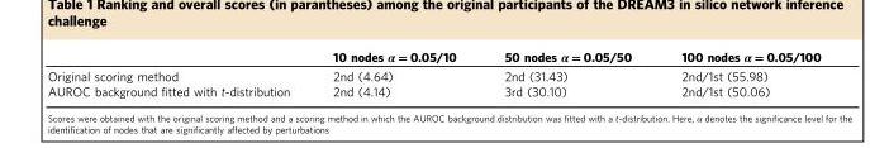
<table><thead><tr><td></td><td>10 nodes α = 0.05/10</td><td>50 nodes α = 0.05/50</td><td>100 nodes α = 0.05/100</td></tr></thead><tbody><tr><td>Original scoring method</td><td>2nd (4.64)</td><td>2nd (31.43)</td><td>2nd/1st (55.98)</td></tr><tr><td>AUROC background fitted with t-distribution</td><td>2nd (4.14)</td><td>3rd (30.10)</td><td>2nd/1st (50.06)</td></tr></tbody></table>